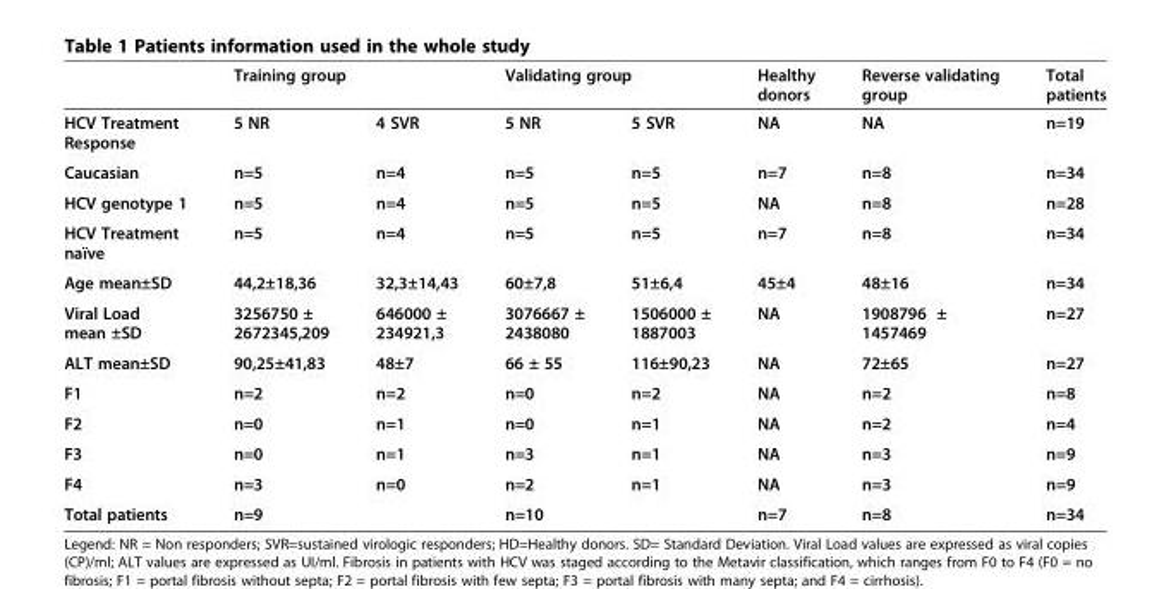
<table><thead><tr><td rowspan="2">HCV Treatment Response</td><td colspan="2">Training group</td><td colspan="2">Validating group</td><td rowspan="2">Healthy donors NA</td><td rowspan="2">Reverse validating group NA</td><td rowspan="2">Total patients n=19</td></tr><tr><td>5 NR</td><td>4 SVR</td><td>5 NR</td><td>5 SVR</td></tr></thead><tbody><tr><td>Caucasian</td><td>n=5</td><td>n=4</td><td>n=5</td><td>n=5</td><td>n=7</td><td>n=8</td><td>n=34</td></tr><tr><td>HCV genotype 1</td><td>n=5</td><td>n=4</td><td>n=5</td><td>n=5</td><td>NA</td><td>n=8</td><td>n=28</td></tr><tr><td>HCV Treatment naïve</td><td>n=5</td><td>n=4</td><td>n=5</td><td>n=5</td><td>n=7</td><td>n=8</td><td>n=34</td></tr><tr><td>Age mean±SD</td><td>44,2±18,36</td><td>32,3±14,43</td><td>60±7,8</td><td>51±6,4</td><td>45±4</td><td>48±16</td><td>n=34</td></tr><tr><td>Viral Load mean ±SD</td><td>3256750 ± 2672345,209</td><td>646000 ± 234921,3</td><td>3076667 ± 2438080</td><td>1506000 ± 1887003</td><td>NA</td><td>1908796 ± 1457469</td><td>n=27</td></tr><tr><td>ALT mean±SD</td><td>90,25±41,83</td><td>48±7</td><td>66 ± 55</td><td>116±90,23</td><td>NA</td><td>72±65</td><td>n=27</td></tr><tr><td>F1</td><td>n=2</td><td>n=2</td><td>n=0</td><td>n=2</td><td>NA</td><td>n=2</td><td>n=8</td></tr><tr><td>F2</td><td>n=0</td><td>n=1</td><td>n=0</td><td>n=1</td><td>NA</td><td>n=2</td><td>n=4</td></tr><tr><td>F3</td><td>n=0</td><td>n=1</td><td>n=3</td><td>n=1</td><td>NA</td><td>n=3</td><td>n=9</td></tr><tr><td>F4</td><td>n=3</td><td>n=0</td><td>n=2</td><td>n=1</td><td>NA</td><td>n=3</td><td>n=9</td></tr><tr><td>Total patients</td><td colspan="2">n=9</td><td colspan="2">n=10</td><td>n=7</td><td>n=8</td><td>n=34</td></tr></tbody></table>